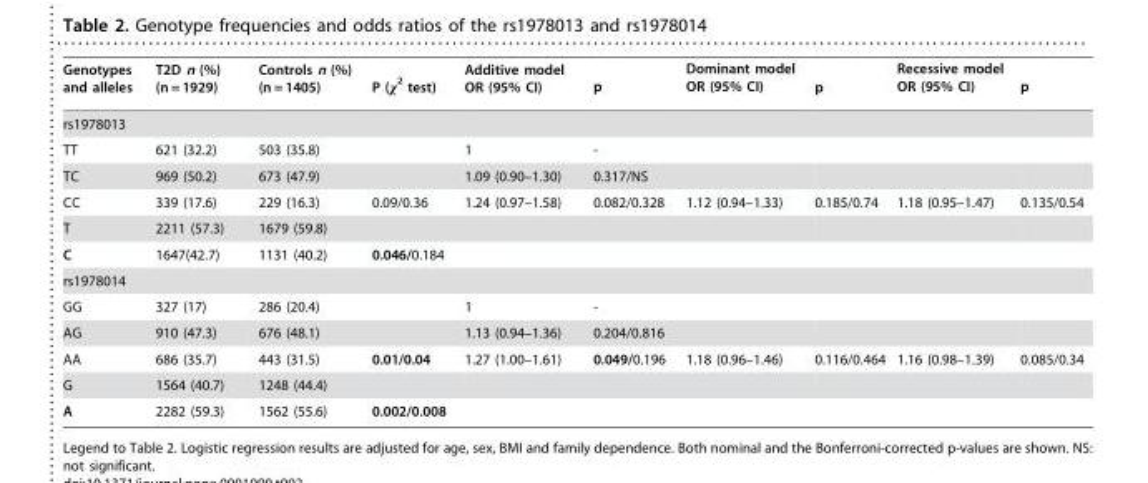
<table><thead><tr><td>Genotypes and alleles</td><td>T2D n (%) (n = 1929)</td><td>Controls n (%) (n = 1405)</td><td>P (χ <sup>2</sup> test)</td><td>Additive model OR (95% CI)</td><td>p</td><td>Dominant model OR (95% CI)</td><td>p</td><td>Recessive model OR (95% CI)</td><td>p</td></tr></thead><tbody><tr><td colspan="10">rs1978013</td></tr><tr><td>TT</td><td>621 (32.2)</td><td>503 (35.8)</td><td></td><td>1</td><td>-</td><td></td><td></td><td></td><td></td></tr><tr><td>TC</td><td>969 (50.2)</td><td>673 (47.9)</td><td></td><td>1.09 (0.90–1.30)</td><td>0.317/NS</td><td></td><td></td><td></td><td></td></tr><tr><td>CC</td><td>339 (17.6)</td><td>229 (16.3)</td><td>0.09/0.36</td><td>1.24 (0.97–1.58)</td><td>0.082/0.328</td><td>1.12 (0.94–1.33)</td><td>0.185/0.74</td><td>1.18 (0.95–1.47)</td><td>0.135/0.54</td></tr><tr><td>T</td><td>2211 (57.3)</td><td>1679 (59.8)</td><td></td><td></td><td></td><td></td><td></td><td></td><td></td></tr><tr><td>C</td><td>1647(42.7)</td><td>1131 (40.2)</td><td>0.046/0.184</td><td></td><td></td><td></td><td></td><td></td><td></td></tr><tr><td colspan="10">rs1978014</td></tr><tr><td>GG</td><td>327 (17)</td><td>286 (20.4)</td><td></td><td>1</td><td>-</td><td></td><td></td><td></td><td></td></tr><tr><td>AG</td><td>910 (47.3)</td><td>676 (48.1)</td><td></td><td>1.13 (0.94–1.36)</td><td>0.204/0.816</td><td></td><td></td><td></td><td></td></tr><tr><td>AA</td><td>686 (35.7)</td><td>443 (31.5)</td><td>0.01/0.04</td><td>1.27 (1.00–1.61)</td><td>0.049/0.196</td><td>1.18 (0.96–1.46)</td><td>0.116/0.464</td><td>1.16 (0.98–1.39)</td><td>0.085/0.34</td></tr><tr><td>G</td><td>1564 (40.7)</td><td>1248 (44.4)</td><td></td><td></td><td></td><td></td><td></td><td></td><td></td></tr><tr><td>A</td><td>2282 (59.3)</td><td>1562 (55.6)</td><td>0.002/0.008</td><td></td><td></td><td></td><td></td><td></td><td></td></tr></tbody></table>